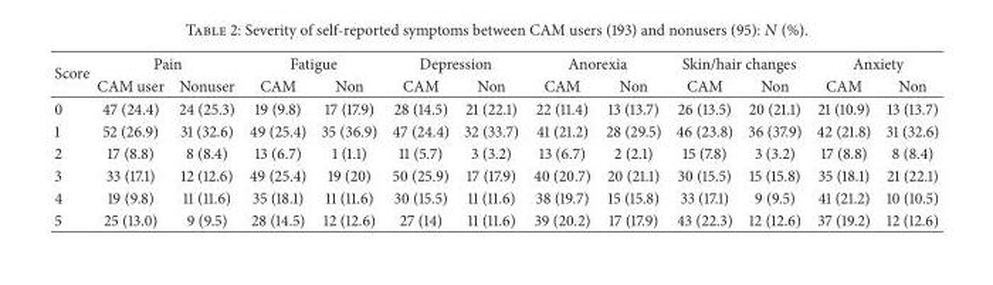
<table><thead><tr><td rowspan="2">Score</td><td colspan="2">Pain</td><td colspan="2">Fatigue</td><td colspan="2">Depression</td><td colspan="2">Anorexia</td><td colspan="2">Skin/hair changes</td><td colspan="2">Anxiety</td></tr><tr><td>CAM user</td><td>Nonuser</td><td>CAM</td><td>Non</td><td>CAM</td><td>Non</td><td>CAM</td><td>Non</td><td>CAM</td><td>Non</td><td>CAM</td><td>Non</td></tr></thead><tbody><tr><td>0</td><td>47 (24.4)</td><td>24 (25.3)</td><td>19 (9.8)</td><td>17 (17.9)</td><td>28 (14.5)</td><td>21 (22.1)</td><td>22 (11.4)</td><td>13 (13.7)</td><td>26 (13.5)</td><td>20 (21.1)</td><td>21 (10.9)</td><td>13 (13.7)</td></tr><tr><td>1</td><td>52 (26.9)</td><td>31 (32.6)</td><td>49 (25.4)</td><td>35 (36.9)</td><td>47 (24.4)</td><td>32 (33.7)</td><td>41 (21.2)</td><td>28 (29.5)</td><td>46 (23.8)</td><td>36 (37.9)</td><td>42 (21.8)</td><td>31 (32.6)</td></tr><tr><td>2</td><td>17 (8.8)</td><td>8 (8.4)</td><td>13 (6.7)</td><td>1 (1.1)</td><td>11 (5.7)</td><td>3 (3.2)</td><td>13 (6.7)</td><td>2 (2.1)</td><td>15 (7.8)</td><td>3 (3.2)</td><td>17 (8.8)</td><td>8 (8.4)</td></tr><tr><td>3</td><td>33 (17.1)</td><td>12 (12.6)</td><td>49 (25.4)</td><td>19 (20)</td><td>50 (25.9)</td><td>17 (17.9)</td><td>40 (20.7)</td><td>20 (21.1)</td><td>30 (15.5)</td><td>15 (15.8)</td><td>35 (18.1)</td><td>21 (22.1)</td></tr><tr><td>4</td><td>19 (9.8)</td><td>11 (11.6)</td><td>35 (18.1)</td><td>11 (11.6)</td><td>30 (15.5)</td><td>11 (11.6)</td><td>38 (19.7)</td><td>15 (15.8)</td><td>33 (17.1)</td><td>9 (9.5)</td><td>41 (21.2)</td><td>10 (10.5)</td></tr><tr><td>5</td><td>25 (13.0)</td><td>9 (9.5)</td><td>28 (14.5)</td><td>12 (12.6)</td><td>27 (14)</td><td>11 (11.6)</td><td>39 (20.2)</td><td>17 (17.9)</td><td>43 (22.3)</td><td>12 (12.6)</td><td>37 (19.2)</td><td>12 (12.6)</td></tr></tbody></table>